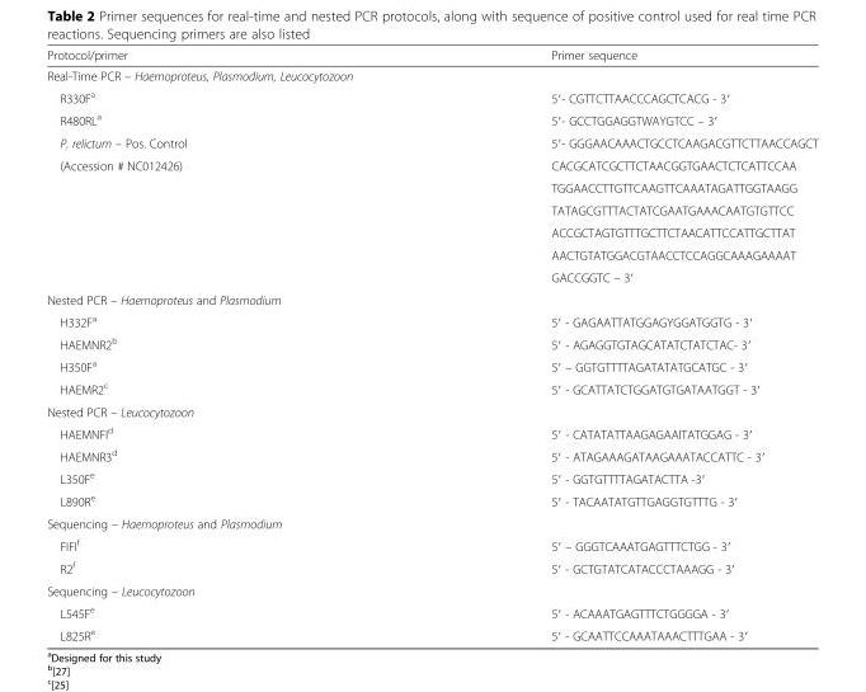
<table><thead><tr><td>Protocol/primer</td><td>Primer sequence</td></tr></thead><tbody><tr><td colspan="2">Real-Time PCR – Haemoproteus, Plasmodium, Leucocytozoon</td></tr><tr><td>R330F<sup>a</sup></td><td>5′- CGTTCTTAACCCAGCTCACG - 3′</td></tr><tr><td>R480RL<sup>a</sup></td><td>5′- GCCTGGAGGTWAYGTCC – 3′</td></tr><tr><td>P. relictum – Pos. Control</td><td>5′- GGGAACAAACTGCCTCAAGACGTTCTTAACCAGCT</td></tr><tr><td rowspan="6">(Accession # NC012426)</td><td>CACGCATCGCTTCTAACGGTGAACTCTCATTCCAA</td></tr><tr><td>TGGAACCTTGTTCAAGTTCAAATAGATTGGTAAGG</td></tr><tr><td>TATAGCGTTTACTATCGAATGAAACAATGTGTTCC</td></tr><tr><td>ACCGCTAGTGTTTGCTTCTAACATTCCATTGCTTAT</td></tr><tr><td>AACTGTATGGACGTAACCTCCAGGCAAAGAAAAT</td></tr><tr><td>GACCGGTC – 3′</td></tr><tr><td colspan="2">Nested PCR – Haemoproteus and Plasmodium</td></tr><tr><td>H332F<sup>a</sup></td><td>5′ - GAGAATTATGGAGYGGATGGTG - 3′</td></tr><tr><td>HAEMNR2<sup>b</sup></td><td>5′ - AGAGGTGTAGCATATCTATCTAC- 3′</td></tr><tr><td>H350F<sup>a</sup></td><td>5′ – GGTGTTTTAGATATATGCATGC - 3′</td></tr><tr><td>HAEMR2<sup>c</sup></td><td>5′ - GCATTATCTGGATGTGATAATGGT - 3′</td></tr><tr><td colspan="2">Nested PCR – Leucocytozoon</td></tr><tr><td>HAEMNFI<sup>d</sup></td><td>5′ - CATATATTAAGAGAAITATGGAG - 3′</td></tr><tr><td>HAEMNR3<sup>d</sup></td><td>5′ - ATAGAAAGATAAGAAATACCATTC - 3′</td></tr><tr><td>L350F<sup>e</sup></td><td>5′ - GGTGTTTTAGATACTTA -3′</td></tr><tr><td>L890R<sup>e</sup></td><td>5′ - TACAATATGTTGAGGTGTTTG - 3′</td></tr><tr><td colspan="2">Sequencing – Haemoproteus and Plasmodium</td></tr><tr><td>FIFI<sup>f</sup></td><td>5′ – GGGTCAAATGAGTTTCTGG - 3′</td></tr><tr><td>R2<sup>f</sup></td><td>5′ - GCTGTATCATACCCTAAAGG - 3′</td></tr><tr><td colspan="2">Sequencing – Leucocytozoon</td></tr><tr><td>L545F<sup>e</sup></td><td>5′ - ACAAATGAGTTTCTGGGGA - 3′</td></tr><tr><td>L825R<sup>e</sup></td><td>5′ - GCAATTCCAAATAAACTTTGAA - 3′</td></tr></tbody></table>